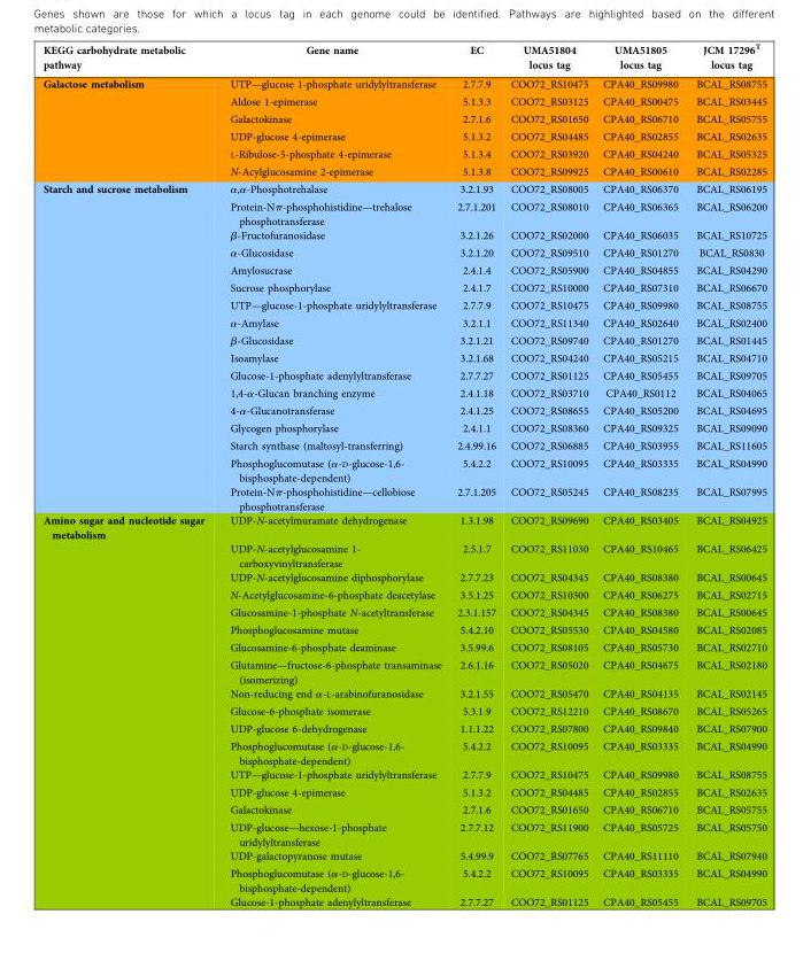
<table><thead><tr><td>KEGG carbohydrate metabolic pathway</td><td>Gene name</td><td>EC</td><td>UMA51804 locus tag</td><td>UMA51805 locus tag</td><td>JCM 17296<sup>T</sup> locus tag</td></tr></thead><tbody><tr><td rowspan="6">Galactose metabolism</td><td>UTP—glucose 1-phosphate uridylyltransferase</td><td>2.7.7.9</td><td>COO72_RS10475</td><td>CPA40_RS09980</td><td>BCAL_RS08755</td></tr><tr><td>Aldose 1-epimerase</td><td>5.1.3.3</td><td>COO72_RS03125</td><td>CPA40_RS00475</td><td>BCAL_RS03445</td></tr><tr><td>Galactokinase</td><td>2.7.1.6</td><td>COO72_RS01650</td><td>CPA40_RS06710</td><td>BCAL_RS05755</td></tr><tr><td>UDP-glucose 4-epimerase</td><td>5.1.3.2</td><td>COO72_RS04485</td><td>CPA40_RS02855</td><td>BCAL_RS02635</td></tr><tr><td>L-Ribulose-5-phosphate 4-epimerase</td><td>5.1.3.4</td><td>COO72_RS03920</td><td>CPA40_RS04240</td><td>BCAL_RS05325</td></tr><tr><td>N-Acylglucosamine 2-epimerase</td><td>5.1.3.8</td><td>COO72_RS09925</td><td>CPA40_RS00610</td><td>BCAL_RS02285</td></tr><tr><td rowspan="17">Starch and sucrose metabolism</td><td>α,α-Phosphotrehalase</td><td>3.2.1.93</td><td>COO72_RS08005</td><td>CPA40_RS06370</td><td>BCAL_RS06195</td></tr><tr><td>Protein-Nπ-phosphohistidine—trehalose phosphotransferase</td><td>2.7.1.201</td><td>COO72_RS08010</td><td>CPA40_RS06365</td><td>BCAL_RS06200</td></tr><tr><td>β-Fructofuranosidase</td><td>3.2.1.26</td><td>COO72_RS02000</td><td>CPA40_RS06035</td><td>BCAL_RS10725</td></tr><tr><td>α-Glucosidase</td><td>3.2.1.20</td><td>COO72_RS09510</td><td>CPA40_RS01270</td><td>BCAL_RS0830</td></tr><tr><td>Amylosucrase</td><td>2.4.1.4</td><td>COO72_RS05900</td><td>CPA40_RS04855</td><td>BCAL_RS04290</td></tr><tr><td>Sucrose phosphorylase</td><td>2.4.1.7</td><td>COO72_RS10000</td><td>CPA40_RS07310</td><td>BCAL_RS06670</td></tr><tr><td>UTP—glucose-1-phosphate uridylyltransferase</td><td>2.7.7.9</td><td>COO72_RS10475</td><td>CPA40_RS09980</td><td>BCAL_RS08755</td></tr><tr><td>α-Amylase</td><td>3.2.1.1</td><td>COO72_RS11340</td><td>CPA40_RS02640</td><td>BCAL_RS02400</td></tr><tr><td>β-Glucosidase</td><td>3.2.1.21</td><td>COO72_RS09740</td><td>CPA40_RS01270</td><td>BCAL_RS01445</td></tr><tr><td>Isoamylase</td><td>3.2.1.68</td><td>COO72_RS04240</td><td>CPA40_RS05215</td><td>BCAL_RS04710</td></tr><tr><td>Glucose-1-phosphate adenylyltransferase</td><td>2.7.7.27</td><td>COO72_RS01125</td><td>CPA40_RS05455</td><td>BCAL_RS09705</td></tr><tr><td>1,4-α-Glucan branching enzyme</td><td>2.4.1.18</td><td>COO72_RS03710</td><td>CPA40_RS0112</td><td>BCAL_RS04065</td></tr><tr><td>4-α-Glucanotransferase</td><td>2.4.1.25</td><td>COO72_RS08655</td><td>CPA40_RS05200</td><td>BCAL_RS04695</td></tr><tr><td>Glycogen phosphorylase</td><td>2.4.1.1</td><td>COO72_RS08360</td><td>CPA40_RS09325</td><td>BCAL_RS09090</td></tr><tr><td>Starch synthase (maltosyl-transferring)</td><td>2.4.99.16</td><td>COO72_RS06885</td><td>CPA40_RS03955</td><td>BCAL_RS11605</td></tr><tr><td>Phosphoglucomutase (α-D-glucose-1,6- bisphosphate-dependent)</td><td>5.4.2.2</td><td>COO72_RS10095</td><td>CPA40_RS03335</td><td>BCAL_RS04990</td></tr><tr><td>Protein-Nπ-phosphohistidine—cellobiose phosphotransferase</td><td>2.7.1.205</td><td>COO72_RS05245</td><td>CPA40_RS08235</td><td>BCAL_RS07995</td></tr><tr><td rowspan="19">Amino sugar and nucleotide sugar metabolism</td><td>UDP-N-acetylmuramate dehydrogenase</td><td>1.3.1.98</td><td>COO72_RS09690</td><td>CPA40_RS03405</td><td>BCAL_RS04925</td></tr><tr><td>UDP-N-acetylglucosamine 1- carboxyvinyltransferase</td><td>2.5.1.7</td><td>COO72_RS11030</td><td>CPA40_RS10465</td><td>BCAL_RS06425</td></tr><tr><td>UDP-N-acetylglucosamine diphosphorylase</td><td>2.7.7.23</td><td>COO72_RS04345</td><td>CPA40_RS08380</td><td>BCAL_RS00645</td></tr><tr><td>N-Acetylglucosamine-6-phosphate deacetylase</td><td>3.5.1.25</td><td>COO72_RS10300</td><td>CPA40_RS06275</td><td>BCAL_RS02715</td></tr><tr><td>Glucosamine-1-phosphate N-acetyltransferase</td><td>2.3.1.157</td><td>COO72_RS04345</td><td>CPA40_RS08380</td><td>BCAL_RS00645</td></tr><tr><td>Phosphoglucosamine mutase</td><td>5.4.2.10</td><td>COO72_RS05530</td><td>CPA40_RS04580</td><td>BCAL_RS02085</td></tr><tr><td>Glucosamine-6-phosphate deaminase</td><td>3.5.99.6</td><td>COO72_RS08105</td><td>CPA40_RS05730</td><td>BCAL_RS02710</td></tr><tr><td>Glutamine—fructose-6-phosphate transaminase (isomerizing)</td><td>2.6.1.16</td><td>COO72_RS05020</td><td>CPA40_RS04675</td><td>BCAL_RS02180</td></tr><tr><td>Non-reducing end α-L-arabinofuranosidase</td><td>3.2.1.55</td><td>COO72_RS05470</td><td>CPA40_RS04135</td><td>BCAL_RS02145</td></tr><tr><td>Glucose-6-phosphate isomerase</td><td>5.3.1.9</td><td>COO72_RS12210</td><td>CPA40_RS08670</td><td>BCAL_RS05265</td></tr><tr><td>UDP-glucose 6-dehydrogenase</td><td>1.1.1.22</td><td>COO72_RS07800</td><td>CPA40_RS09840</td><td>BCAL_RS07900</td></tr><tr><td>Phosphoglucomutase (α-D-glucose-1,6- bisphosphate-dependent)</td><td>5.4.2.2</td><td>COO72_RS10095</td><td>CPA40_RS03335</td><td>BCAL_RS04990</td></tr><tr><td>UTP—glucose-1-phosphate uridylyltransferase</td><td>2.7.7.9</td><td>COO72_RS10475</td><td>CPA40_RS09980</td><td>BCAL_RS08755</td></tr><tr><td>UDP-glucose 4-epimerase</td><td>5.1.3.2</td><td>COO72_RS04485</td><td>CPA40_RS02855</td><td>BCAL_RS02635</td></tr><tr><td>Galactokinase</td><td>2.7.1.6</td><td>COO72_RS01650</td><td>CPA40_RS06710</td><td>BCAL_RS05755</td></tr><tr><td>UDP-glucose—hexose-1-phosphate uridylyltransferase</td><td>2.7.7.12</td><td>COO72_RS11900</td><td>CPA40_RS05725</td><td>BCAL_RS05750</td></tr><tr><td>UDP-galactopyranose mutase</td><td>5.4.99.9</td><td>COO72_RS07765</td><td>CPA40_RS11110</td><td>BCAL_RS07940</td></tr><tr><td>Phosphoglucomutase (α-D-glucose-1,6- bisphosphate-dependent)</td><td>5.4.2.2</td><td>COO72_RS10095</td><td>CPA40_RS03335</td><td>BCAL_RS04990</td></tr><tr><td>Glucose-1-phosphate adenylyltransferase</td><td>2.7.7.27</td><td>COO72_RS01125</td><td>CPA40_RS05455</td><td>BCAL_RS09705</td></tr></tbody></table>